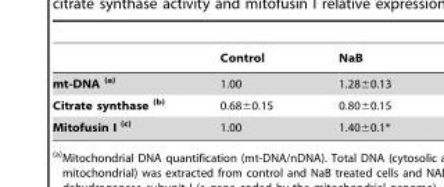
<table><thead><tr><td></td><td>Control</td><td>NaB</td></tr></thead><tbody><tr><td>mt-DNA (a)</td><td>1.00</td><td>1.28±0.13</td></tr><tr><td>Citrate synthase (b)</td><td>0.68±0.15</td><td>0.80±0.15</td></tr><tr><td>Mitofusin I (c)</td><td>1.00</td><td>1.40±0.1*</td></tr></tbody></table>